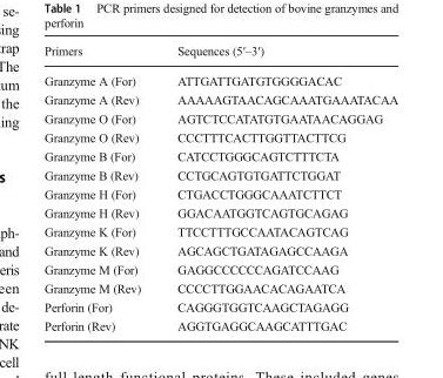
<table><thead><tr><td>Primers</td><td>Sequences (5′–3′)</td></tr></thead><tbody><tr><td>Granzyme A (For)</td><td>ATTGATTGATGTGGGGACAC</td></tr><tr><td>Granzyme A (Rev)</td><td>AAAAAGTAACAGCAAATGAAATACAA</td></tr><tr><td>Granzyme O (For)</td><td>AGTCTCCATATGTGAATAACAGGAG</td></tr><tr><td>Granzyme O (Rev)</td><td>CCCTTTCACTTGGTTACTTCG</td></tr><tr><td>Granzyme B (For)</td><td>CATCCTGGGCAGTCTTTCTA</td></tr><tr><td>Granzyme B (Rev)</td><td>CCTGCAGTGTGATTCTGGAT</td></tr><tr><td>Granzyme H (For)</td><td>CTGACCTGGGCAAATCTTCT</td></tr><tr><td>Granzyme H (Rev)</td><td>GGACAATGGTCAGTGCAGAG</td></tr><tr><td>Granzyme K (For)</td><td>TTCCTTTGCCAATACAGTCAG</td></tr><tr><td>Granzyme K (Rev)</td><td>AGCAGCTGATAGAGCCAAGA</td></tr><tr><td>Granzyme M (For)</td><td>GAGGCCCCCCAGATCCAAG</td></tr><tr><td>Granzyme M (Rev)</td><td>CCCCTTGGAACACAGAATCA</td></tr><tr><td>Perforin (For)</td><td>CAGGGTGGTCAAGCTAGAGG</td></tr><tr><td>Perforin (Rev)</td><td>AGGTGAGGCAAGCATTTGAC</td></tr></tbody></table>